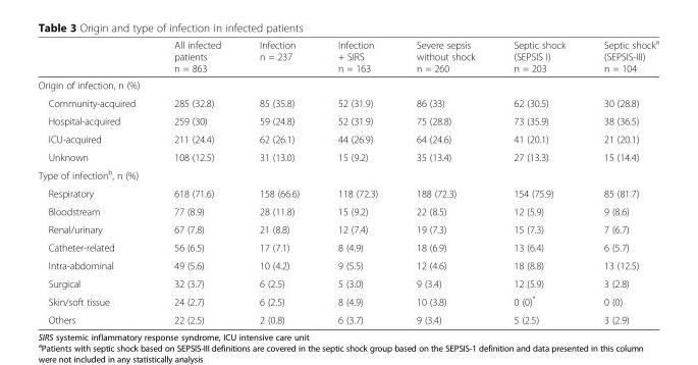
<table><thead><tr><td></td><td>All infected patients n = 863</td><td>Infection n = 237</td><td>Infection + SIRS n = 163</td><td>Severe sepsis without shock n = 260</td><td>Septic shock (SEPSIS I) n = 203</td><td>Septic shock<sup>a</sup> (SEPSIS-III) n = 104</td></tr></thead><tbody><tr><td colspan="7">Origin of infection, n (%)</td></tr><tr><td>Community-acquired</td><td>285 (32.8)</td><td>85 (35.8)</td><td>52 (31.9)</td><td>86 (33)</td><td>62 (30.5)</td><td>30 (28.8)</td></tr><tr><td>Hospital-acquired</td><td>259 (30)</td><td>59 (24.8)</td><td>52 (31.9)</td><td>75 (28.8)</td><td>73 (35.9)</td><td>38 (36.5)</td></tr><tr><td>ICU-acquired</td><td>211 (24.4)</td><td>62 (26.1)</td><td>44 (26.9)</td><td>64 (24.6)</td><td>41 (20.1)</td><td>21 (20.1)</td></tr><tr><td>Unknown</td><td>108 (12.5)</td><td>31 (13.0)</td><td>15 (9.2)</td><td>35 (13.4)</td><td>27 (13.3)</td><td>15 (14.4)</td></tr><tr><td colspan="7">Type of infection<sup>b</sup>, n (%)</td></tr><tr><td>Respiratory</td><td>618 (71.6)</td><td>158 (66.6)</td><td>118 (72.3)</td><td>188 (72.3)</td><td>154 (75.9)</td><td>85 (81.7)</td></tr><tr><td>Bloodstream</td><td>77 (8.9)</td><td>28 (11.8)</td><td>15 (9.2)</td><td>22 (8.5)</td><td>12 (5.9)</td><td>9 (8.6)</td></tr><tr><td>Renal/urinary</td><td>67 (7.8)</td><td>21 (8.8)</td><td>12 (7.4)</td><td>19 (7.3)</td><td>15 (7.3)</td><td>7 (6.7)</td></tr><tr><td>Catheter-related</td><td>56 (6.5)</td><td>17 (7.1)</td><td>8 (4.9)</td><td>18 (6.9)</td><td>13 (6.4)</td><td>6 (5.7)</td></tr><tr><td>Intra-abdominal</td><td>49 (5.6)</td><td>10 (4.2)</td><td>9 (5.5)</td><td>12 (4.6)</td><td>18 (8.8)</td><td>13 (12.5)</td></tr><tr><td>Surgical</td><td>32 (3.7)</td><td>6 (2.5)</td><td>5 (3.0)</td><td>9 (3.4)</td><td>12 (5.9)</td><td>3 (2.8)</td></tr><tr><td>Skin/soft tissue</td><td>24 (2.7)</td><td>6 (2.5)</td><td>8 (4.9)</td><td>10 (3.8)</td><td>0 (0)*</td><td>0 (0)</td></tr><tr><td>Others</td><td>22 (2.5)</td><td>2 (0.8)</td><td>6 (3.7)</td><td>9 (3.4)</td><td>5 (2.5)</td><td>3 (2.9)</td></tr></tbody></table>